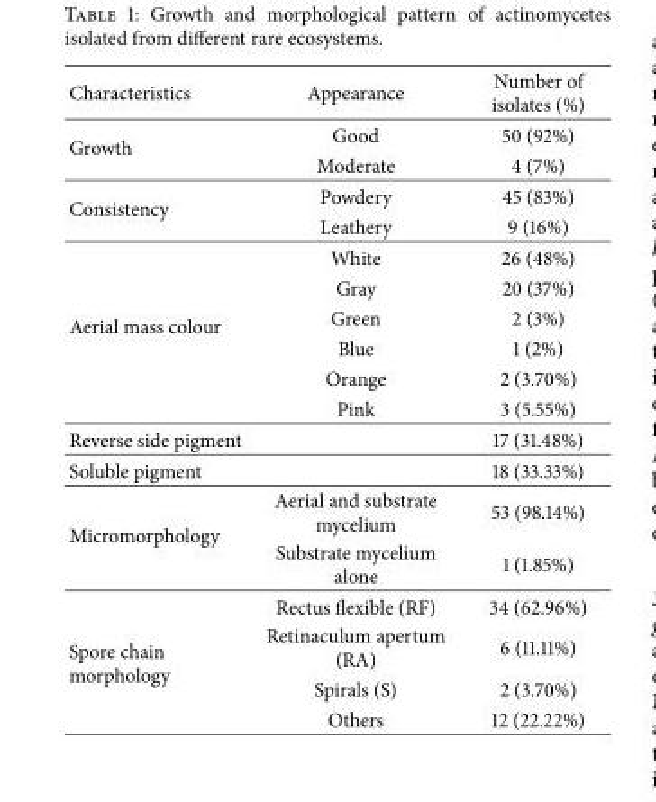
<table><thead><tr><td>Characteristics</td><td>Appearance</td><td>Number of isolates (%)</td></tr></thead><tbody><tr><td rowspan="2">Growth</td><td>Good</td><td>50 (92%)</td></tr><tr><td>Moderate</td><td>4 (7%)</td></tr><tr><td rowspan="2">Consistency</td><td>Powdery</td><td>45 (83%)</td></tr><tr><td>Leathery</td><td>9 (16%)</td></tr><tr><td rowspan="6">Aerial mass colour</td><td>White</td><td>26 (48%)</td></tr><tr><td>Gray</td><td>20 (37%)</td></tr><tr><td>Green</td><td>2 (3%)</td></tr><tr><td>Blue</td><td>1 (2%)</td></tr><tr><td>Orange</td><td>2 (3.70%)</td></tr><tr><td>Pink</td><td>3 (5.55%)</td></tr><tr><td>Reverse side pigment</td><td></td><td>17 (31.48%)</td></tr><tr><td>Soluble pigment</td><td></td><td>18 (33.33%)</td></tr><tr><td rowspan="2">Micromorphology</td><td>Aerial and substrate mycelium</td><td>53 (98.14%)</td></tr><tr><td>Substrate mycelium alone</td><td>1 (1.85%)</td></tr><tr><td rowspan="4">Spore chain morphology</td><td>Rectus flexible (RF)</td><td>34 (62.96%)</td></tr><tr><td>Retinaculum apertum (RA)</td><td>6 (11.11%)</td></tr><tr><td>Spirals (S)</td><td>2 (3.70%)</td></tr><tr><td>Others</td><td>12 (22.22%)</td></tr></tbody></table>